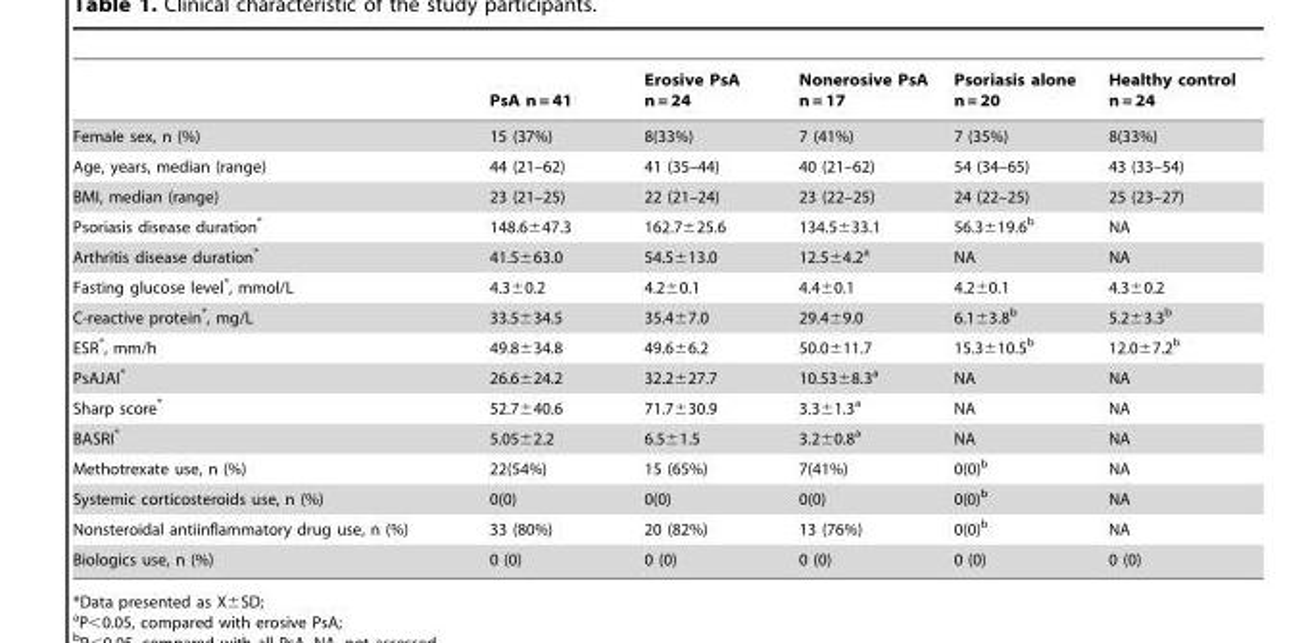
<table><thead><tr><td></td><td>PsA n = 41</td><td>Erosive PsA n = 24</td><td>Nonerosive PsA n = 17</td><td>Psoriasis alone n = 20</td><td>Healthy control n = 24</td></tr></thead><tbody><tr><td>Female sex, n (%)</td><td>15 (37%)</td><td>8(33%)</td><td>7 (41%)</td><td>7 (35%)</td><td>8(33%)</td></tr><tr><td>Age, years, median (range)</td><td>44 (21–62)</td><td>41 (35–44)</td><td>40 (21–62)</td><td>54 (34–65)</td><td>43 (33–54)</td></tr><tr><td>BMI, median (range)</td><td>23 (21–25)</td><td>22 (21–24)</td><td>23 (22–25)</td><td>24 (22–25)</td><td>25 (23–27)</td></tr><tr><td>Psoriasis disease duration*</td><td>148.6±47.3</td><td>162.7±25.6</td><td>134.5±33.1</td><td>56.3±19.6<sup>b</sup></td><td>NA</td></tr><tr><td>Arthritis disease duration*</td><td>41.5±63.0</td><td>54.5±13.0</td><td>12.5±4.2<sup>a</sup></td><td>NA</td><td>NA</td></tr><tr><td>Fasting glucose level*, mmol/L</td><td>4.3±0.2</td><td>4.2±0.1</td><td>4.4±0.1</td><td>4.2±0.1</td><td>4.3±0.2</td></tr><tr><td>C-reactive protein*, mg/L</td><td>33.5±34.5</td><td>35.4±7.0</td><td>29.4±9.0</td><td>6.1±3.8<sup>b</sup></td><td>5.2±3.3<sup>b</sup></td></tr><tr><td>ESR*, mm/h</td><td>49.8±34.8</td><td>49.6±6.2</td><td>50.0±11.7</td><td>15.3±10.5<sup>b</sup></td><td>12.0±7.2<sup>b</sup></td></tr><tr><td>PsAJAI*</td><td>26.6±24.2</td><td>32.2±27.7</td><td>10.53±8.3<sup>a</sup></td><td>NA</td><td>NA</td></tr><tr><td>Sharp score*</td><td>52.7±40.6</td><td>71.7±30.9</td><td>3.3±1.3<sup>a</sup></td><td>NA</td><td>NA</td></tr><tr><td>BASRI*</td><td>5.05±2.2</td><td>6.5±1.5</td><td>3.2±0.8<sup>a</sup></td><td>NA</td><td>NA</td></tr><tr><td>Methotrexate use, n (%)</td><td>22(54%)</td><td>15 (65%)</td><td>7(41%)</td><td>0(0)<sup>b</sup></td><td>NA</td></tr><tr><td>Systemic corticosteroids use, n (%)</td><td>0(0)</td><td>0(0)</td><td>0(0)</td><td>0(0)<sup>b</sup></td><td>NA</td></tr><tr><td>Nonsteroidal antiinflammatory drug use, n (%)</td><td>33 (80%)</td><td>20 (82%)</td><td>13 (76%)</td><td>0(0)<sup>b</sup></td><td>NA</td></tr><tr><td>Biologics use, n (%)</td><td>0 (0)</td><td>0 (0)</td><td>0 (0)</td><td>0 (0)</td><td>0 (0)</td></tr></tbody></table>